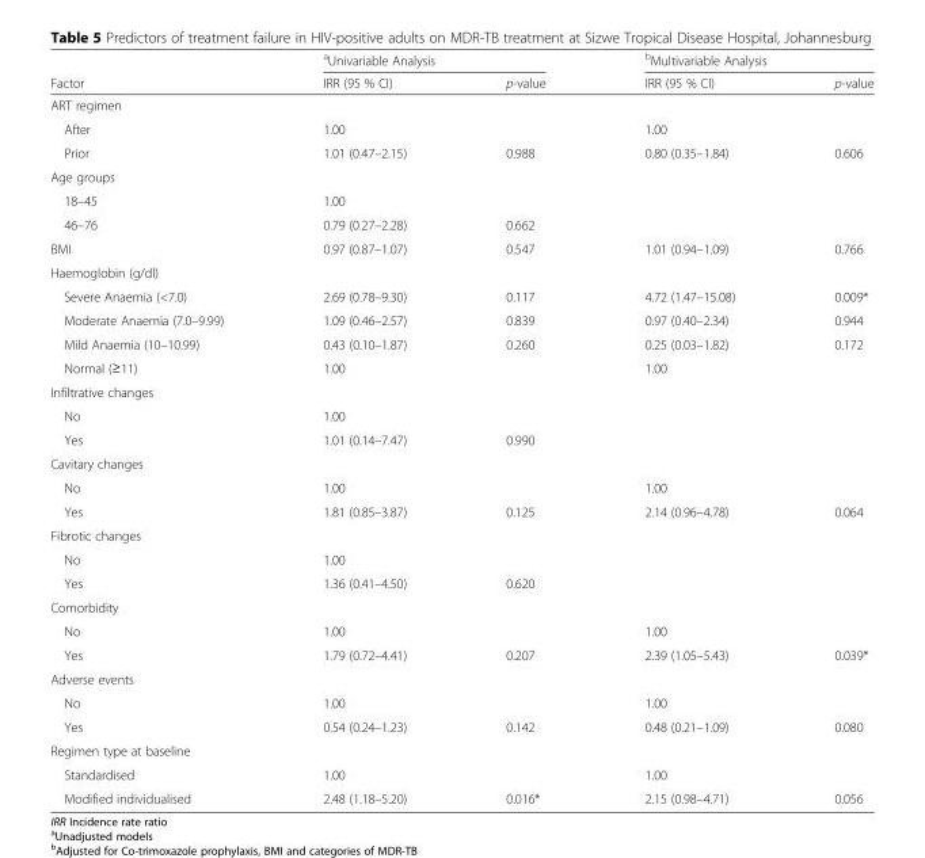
<table><thead><tr><td rowspan="2">Factor</td><td colspan="2"><sup>a</sup>Univariable Analysis</td><td colspan="2"><sup>b</sup>Multivariable Analysis</td></tr><tr><td>IRR (95 % CI)</td><td>p-value</td><td>IRR (95 % CI)</td><td>p-value</td></tr></thead><tbody><tr><td colspan="5">ART regimen</td></tr><tr><td>After</td><td>1.00</td><td></td><td>1.00</td><td></td></tr><tr><td>Prior</td><td>1.01 (0.47–2.15)</td><td>0.988</td><td>0.80 (0.35–1.84)</td><td>0.606</td></tr><tr><td colspan="5">Age groups</td></tr><tr><td>18–45</td><td>1.00</td><td></td><td></td><td></td></tr><tr><td>46–76</td><td>0.79 (0.27–2.28)</td><td>0.662</td><td></td><td></td></tr><tr><td>BMI</td><td>0.97 (0.87–1.07)</td><td>0.547</td><td>1.01 (0.94–1.09)</td><td>0.766</td></tr><tr><td colspan="5">Haemoglobin (g/dl)</td></tr><tr><td>Severe Anaemia (&lt;7.0)</td><td>2.69 (0.78–9.30)</td><td>0.117</td><td>4.72 (1.47–15.08)</td><td>0.009*</td></tr><tr><td>Moderate Anaemia (7.0–9.99)</td><td>1.09 (0.46–2.57)</td><td>0.839</td><td>0.97 (0.40–2.34)</td><td>0.944</td></tr><tr><td>Mild Anaemia (10–10.99)</td><td>0.43 (0.10–1.87)</td><td>0.260</td><td>0.25 (0.03–1.82)</td><td>0.172</td></tr><tr><td>Normal (≥11)</td><td>1.00</td><td></td><td>1.00</td><td></td></tr><tr><td colspan="5">Infiltrative changes</td></tr><tr><td>No</td><td>1.00</td><td></td><td></td><td></td></tr><tr><td>Yes</td><td>1.01 (0.14–7.47)</td><td>0.990</td><td></td><td></td></tr><tr><td colspan="5">Cavitary changes</td></tr><tr><td>No</td><td>1.00</td><td></td><td>1.00</td><td></td></tr><tr><td>Yes</td><td>1.81 (0.85–3.87)</td><td>0.125</td><td>2.14 (0.96–4.78)</td><td>0.064</td></tr><tr><td colspan="5">Fibrotic changes</td></tr><tr><td>No</td><td>1.00</td><td></td><td></td><td></td></tr><tr><td>Yes</td><td>1.36 (0.41–4.50)</td><td>0.620</td><td></td><td></td></tr><tr><td colspan="5">Comorbidity</td></tr><tr><td>No</td><td>1.00</td><td></td><td>1.00</td><td></td></tr><tr><td>Yes</td><td>1.79 (0.72–4.41)</td><td>0.207</td><td>2.39 (1.05–5.43)</td><td>0.039*</td></tr><tr><td colspan="5">Adverse events</td></tr><tr><td>No</td><td>1.00</td><td></td><td>1.00</td><td></td></tr><tr><td>Yes</td><td>0.54 (0.24–1.23)</td><td>0.142</td><td>0.48 (0.21–1.09)</td><td>0.080</td></tr><tr><td colspan="5">Regimen type at baseline</td></tr><tr><td>Standardised</td><td>1.00</td><td></td><td>1.00</td><td></td></tr><tr><td>Modified individualised</td><td>2.48 (1.18–5.20)</td><td>0.016*</td><td>2.15 (0.98–4.71)</td><td>0.056</td></tr></tbody></table>